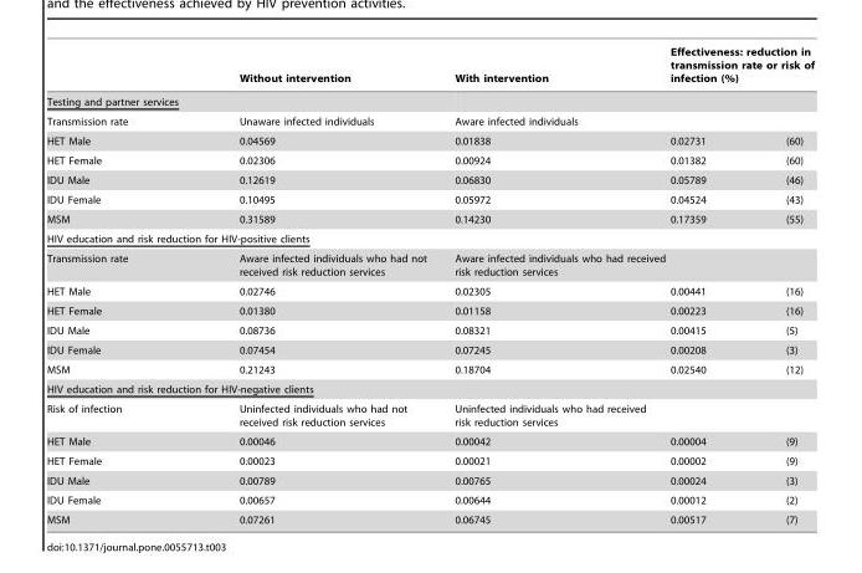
<table><thead><tr><td rowspan="2">Testing and partner services</td><td rowspan="2">Without intervention</td><td rowspan="2">With intervention</td><td colspan="2">Effectiveness: reduction in transmission rate or risk of infection (%)</td></tr><tr><td></td><td></td></tr></thead><tbody><tr><td>Transmission rate</td><td>Unaware infected individuals</td><td>Aware infected individuals</td><td></td><td></td></tr><tr><td>HET Male</td><td>0.04569</td><td>0.01838</td><td>0.02731</td><td>(60)</td></tr><tr><td>HET Female</td><td>0.02306</td><td>0.00924</td><td>0.01382</td><td>(60)</td></tr><tr><td>IDU Male</td><td>0.12619</td><td>0.06830</td><td>0.05789</td><td>(46)</td></tr><tr><td>IDU Female</td><td>0.10495</td><td>0.05972</td><td>0.04524</td><td>(43)</td></tr><tr><td>MSM</td><td>0.31589</td><td>0.14230</td><td>0.17359</td><td>(55)</td></tr><tr><td colspan="5">HIV education and risk reduction for HIV-positive clients</td></tr><tr><td>Transmission rate</td><td>Aware infected individuals who had not received risk reduction services</td><td>Aware infected individuals who had received risk reduction services</td><td></td><td></td></tr><tr><td>HET Male</td><td>0.02746</td><td>0.02305</td><td>0.00441</td><td>(16)</td></tr><tr><td>HET Female</td><td>0.01380</td><td>0.01158</td><td>0.00223</td><td>(16)</td></tr><tr><td>IDU Male</td><td>0.08736</td><td>0.08321</td><td>0.00415</td><td>(5)</td></tr><tr><td>IDU Female</td><td>0.07454</td><td>0.07245</td><td>0.00208</td><td>(3)</td></tr><tr><td>MSM</td><td>0.21243</td><td>0.18704</td><td>0.02540</td><td>(12)</td></tr><tr><td colspan="5">HIV education and risk reduction for HIV-negative clients</td></tr><tr><td>Risk of infection</td><td>Uninfected individuals who had not received risk reduction services</td><td>Uninfected individuals who had received risk reduction services</td><td></td><td></td></tr><tr><td>HET Male</td><td>0.00046</td><td>0.00042</td><td>0.00004</td><td>(9)</td></tr><tr><td>HET Female</td><td>0.00023</td><td>0.00021</td><td>0.00002</td><td>(9)</td></tr><tr><td>IDU Male</td><td>0.00789</td><td>0.00765</td><td>0.00024</td><td>(3)</td></tr><tr><td>IDU Female</td><td>0.00657</td><td>0.00644</td><td>0.00012</td><td>(2)</td></tr><tr><td>MSM</td><td>0.07261</td><td>0.06745</td><td>0.00517</td><td>(7)</td></tr></tbody></table>